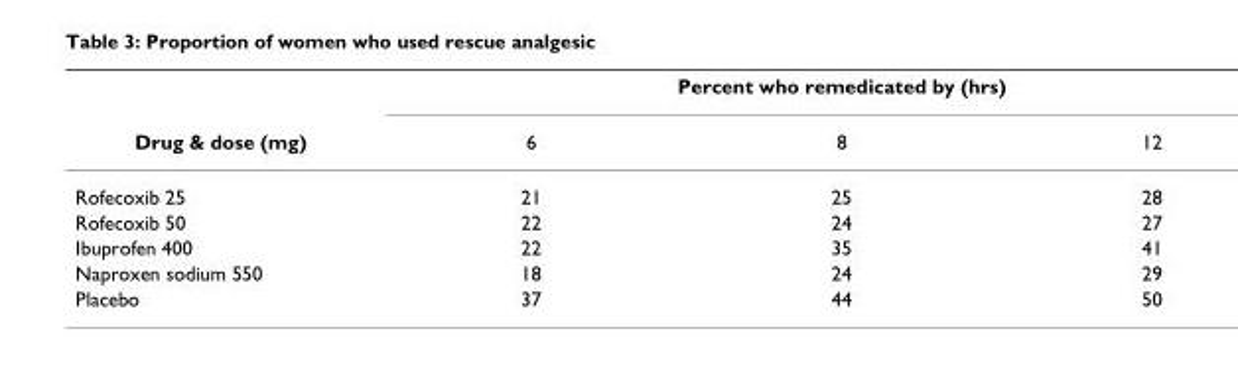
<table><thead><tr><td rowspan="2">Drug &amp; dose (mg)</td><td colspan="3">Percent who remedicated by (hrs)</td></tr><tr><td>6</td><td>8</td><td>12</td></tr></thead><tbody><tr><td>Rofecoxib 25</td><td>21</td><td>25</td><td>28</td></tr><tr><td>Rofecoxib 50</td><td>22</td><td>24</td><td>27</td></tr><tr><td>Ibuprofen 400</td><td>22</td><td>35</td><td>41</td></tr><tr><td>Naproxen sodium 550</td><td>18</td><td>24</td><td>29</td></tr><tr><td>Placebo</td><td>37</td><td>44</td><td>50</td></tr></tbody></table>